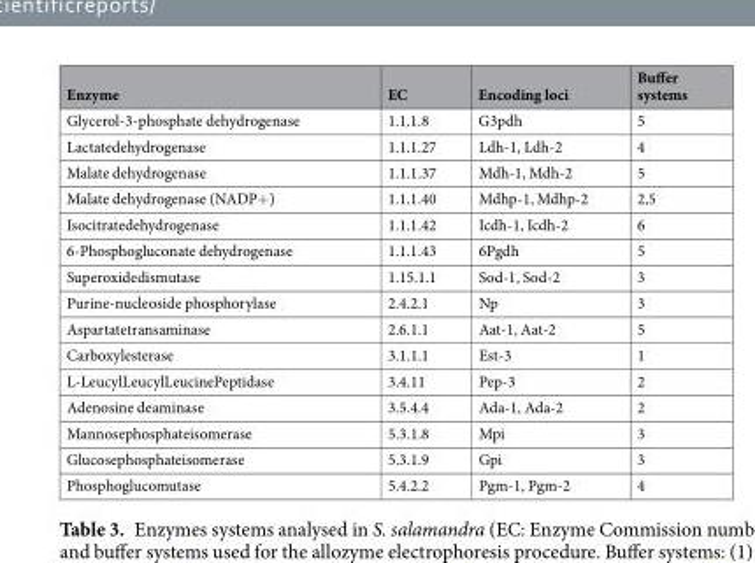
<table><thead><tr><td>Enzyme</td><td>EC</td><td>Encoding loci</td><td>Buffer systems</td></tr></thead><tbody><tr><td>Glycerol-3-phosphate dehydrogenase</td><td>1.1.1.8</td><td>G3pdh</td><td>5</td></tr><tr><td>Lactatedehydrogenase</td><td>1.1.1.27</td><td>Ldh-1, Ldh-2</td><td>4</td></tr><tr><td>Malate dehydrogenase</td><td>1.1.1.37</td><td>Mdh-1, Mdh-2</td><td>5</td></tr><tr><td>Malate dehydrogenase (NADP+)</td><td>1.1.1.40</td><td>Mdhp-1, Mdhp-2</td><td>2,5</td></tr><tr><td>Isocitratedehydrogenase</td><td>1.1.1.42</td><td>Icdh-1, Icdh-2</td><td>6</td></tr><tr><td>6-Phosphogluconate dehydrogenase</td><td>1.1.1.43</td><td>6Pgdh</td><td>5</td></tr><tr><td>Superoxidedismutase</td><td>1.15.1.1</td><td>Sod-1, Sod-2</td><td>3</td></tr><tr><td>Purine-nucleoside phosphorylase</td><td>2.4.2.1</td><td>Np</td><td>3</td></tr><tr><td>Aspartatetransaminase</td><td>2.6.1.1</td><td>Aat-1, Aat-2</td><td>5</td></tr><tr><td>Carboxylesterase</td><td>3.1.1.1</td><td>Est-3</td><td>1</td></tr><tr><td>L-LeucylLeucylLeucinePeptidase</td><td>3.4.11</td><td>Pep-3</td><td>2</td></tr><tr><td>Adenosine deaminase</td><td>3.5.4.4</td><td>Ada-1, Ada-2</td><td>2</td></tr><tr><td>Mannosephosphateisomerase</td><td>5.3.1.8</td><td>Mpi</td><td>3</td></tr><tr><td>Glucosephosphateisomerase</td><td>5.3.1.9</td><td>Gpi</td><td>3</td></tr><tr><td>Phosphoglucomutase</td><td>5.4.2.2</td><td>Pgm-1, Pgm-2</td><td>4</td></tr></tbody></table>